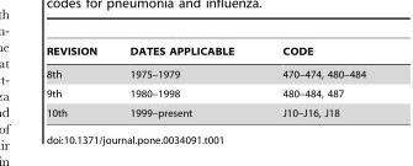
<table><thead><tr><td>REVISION</td><td>DATES APPLICABLE</td><td>CODE</td></tr></thead><tbody><tr><td>8th</td><td>1975–1979</td><td>470–474, 480–484</td></tr><tr><td>9th</td><td>1980–1998</td><td>480–484, 487</td></tr><tr><td>10th</td><td>1999–present</td><td>J10–J16, J18</td></tr></tbody></table>